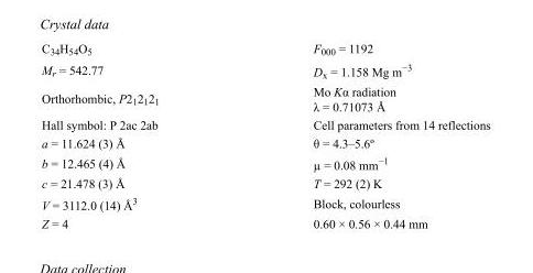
<table><tbody><tr><td>C<sub>34</sub>H<sub>54</sub>O<sub>5</sub></td><td>F<sub>000</sub> = 1192</td></tr><tr><td>M<sub>r</sub> = 542.77</td><td>D<sub>x</sub> = 1.158 Mg m<sup>−3</sup></td></tr><tr><td>Orthorhombic, P2<sub>1</sub>2<sub>1</sub>2<sub>1</sub></td><td>Mo Kα radiation λ = 0.71073 Å</td></tr><tr><td>Hall symbol: P 2ac 2ab</td><td>Cell parameters from 14 reflections</td></tr><tr><td>a = 11.624 (3) Å</td><td>θ = 4.3–5.6º</td></tr><tr><td>b = 12.465 (4) Å</td><td>µ = 0.08 mm<sup>−1</sup></td></tr><tr><td>c = 21.478 (3) Å</td><td>T = 292 (2) K</td></tr><tr><td>V = 3112.0 (14) Å<sup>3</sup></td><td>Block, colourless</td></tr><tr><td>Z = 4</td><td>0.60 × 0.56 × 0.44 mm</td></tr></tbody></table>